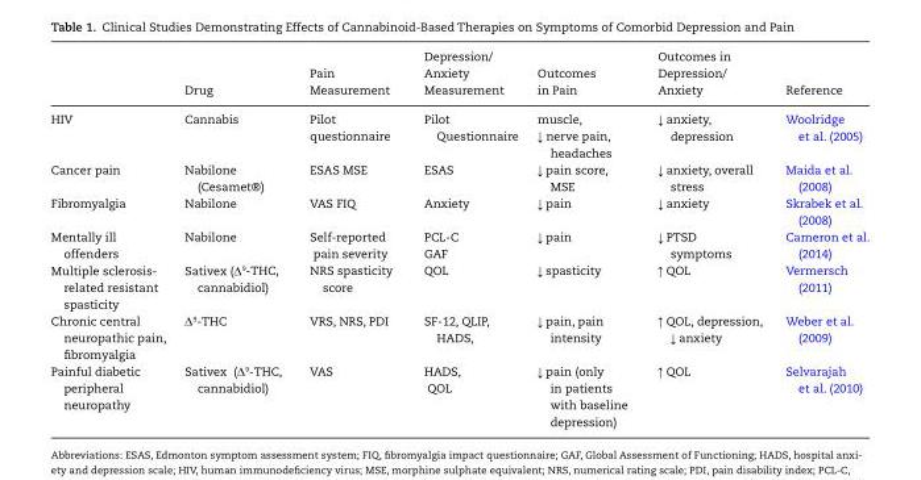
<table><thead><tr><td></td><td>Drug</td><td>Pain Measurement</td><td>Depression/ Anxiety Measurement</td><td>Outcomes in Pain</td><td>Outcomes in Depression/ Anxiety</td><td>Reference</td></tr></thead><tbody><tr><td>HIV</td><td>Cannabis</td><td>Pilot questionnaire</td><td>Pilot Questionnaire</td><td>muscle, ↓ nerve pain, headaches</td><td>↓ anxiety, depression</td><td>Woolridge et al. (2005)</td></tr><tr><td>Cancer pain</td><td>Nabilone (Cesamet®)</td><td>ESAS MSE</td><td>ESAS</td><td>↓ pain score, MSE</td><td>↓ anxiety, overall stress</td><td>Maida et al. (2008)</td></tr><tr><td>Fibromyalgia</td><td>Nabilone</td><td>VAS FIQ</td><td>Anxiety</td><td>↓ pain</td><td>↓ anxiety</td><td>Skrabek et al. (2008)</td></tr><tr><td>Mentally ill offenders</td><td>Nabilone</td><td>Self-reported pain severity</td><td>PCL-C GAF</td><td>↓ pain</td><td>↓ PTSD symptoms</td><td>Cameron et al. (2014)</td></tr><tr><td>Multiple sclerosis- related resistant spasticity</td><td>Sativex (Δ<sup>9</sup>-THC, cannabidiol)</td><td>NRS spasticity score</td><td>QOL</td><td>↓ spasticity</td><td>↑ QOL</td><td>Vermersch (2011)</td></tr><tr><td>Chronic central neuropathic pain, fibromyalgia</td><td>Δ<sup>9</sup>-THC</td><td>VRS, NRS, PDI</td><td>SF-12, QLIP, HADS,</td><td>↓ pain, pain intensity</td><td>↑ QOL, depression, ↓ anxiety</td><td>Weber et al. (2009)</td></tr><tr><td>Painful diabetic peripheral neuropathy</td><td>Sativex (Δ<sup>9</sup>-THC, cannabidiol)</td><td>VAS</td><td>HADS, QOL</td><td>↓ pain (only in patients with baseline depression)</td><td>↑ QOL</td><td>Selvarajah et al. (2010)</td></tr></tbody></table>